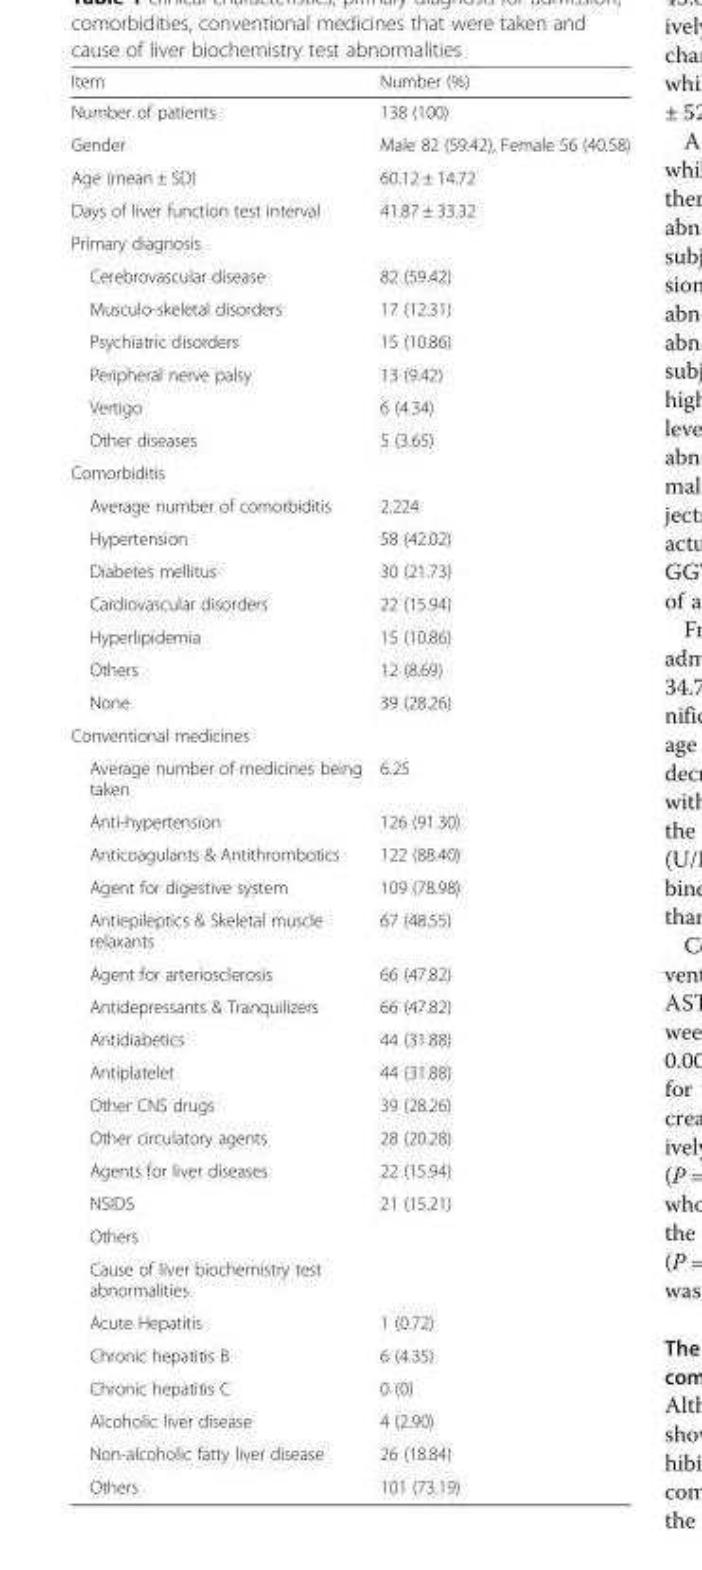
<table><thead><tr><td>Item</td><td>Number (%)</td></tr></thead><tbody><tr><td>Number of patients</td><td>138 (100)</td></tr><tr><td>Gender</td><td>Male 82 (59.42), Female 56 (40.58)</td></tr><tr><td>Age (mean ± SD)</td><td>60.12 ± 14.72</td></tr><tr><td>Days of liver function test interval</td><td>41.87 ± 33.32</td></tr><tr><td colspan="2">Primary diagnosis</td></tr><tr><td>Cerebrovascular disease</td><td>82 (59.42)</td></tr><tr><td>Musculo-skeletal disorders</td><td>17 (12.31)</td></tr><tr><td>Psychiatric disorders</td><td>15 (10.86)</td></tr><tr><td>Peripheral nerve palsy</td><td>13 (9.42)</td></tr><tr><td>Vertigo</td><td>6 (4.34)</td></tr><tr><td>Other diseases</td><td>5 (3.65)</td></tr><tr><td colspan="2">Comorbiditis</td></tr><tr><td>Average number of comorbiditis</td><td>2.224</td></tr><tr><td>Hypertension</td><td>58 (42.02)</td></tr><tr><td>Diabetes mellitus</td><td>30 (21.73)</td></tr><tr><td>Cardiovascular disorders</td><td>22 (15.94)</td></tr><tr><td>Hyperlipidemia</td><td>15 (10.86)</td></tr><tr><td>Others</td><td>12 (8.69)</td></tr><tr><td>None</td><td>39 (28.26)</td></tr><tr><td colspan="2">Conventional medicines</td></tr><tr><td>Average number of medicines being taken</td><td>6.25</td></tr><tr><td>Anti-hypertension</td><td>126 (91.30)</td></tr><tr><td>Anticoagulants &amp; Antithrombotics</td><td>122 (88.40)</td></tr><tr><td>Agent for digestive system</td><td>109 (78.98)</td></tr><tr><td>Antiepileptics &amp; Skeletal muscle relaxants</td><td>67 (48.55)</td></tr><tr><td>Agent for arteriosclerosis</td><td>66 (47.82)</td></tr><tr><td>Antidepressants &amp; Tranquilizers</td><td>66 (47.82)</td></tr><tr><td>Antidiabetics</td><td>44 (31.88)</td></tr><tr><td>Antiplatelet</td><td>44 (31.88)</td></tr><tr><td>Other CNS drugs</td><td>39 (28.26)</td></tr><tr><td>Other circulatory agents</td><td>28 (20.28)</td></tr><tr><td>Agents for liver diseases</td><td>22 (15.94)</td></tr><tr><td>NSIDS</td><td>21 (15.21)</td></tr><tr><td colspan="2">Others</td></tr><tr><td colspan="2">Cause of liver biochemistry test abnormalities</td></tr><tr><td>Acute Hepatitis</td><td>1 (0.72)</td></tr><tr><td>Chronic hepatitis B</td><td>6 (4.35)</td></tr><tr><td>Chronic hepatitis C</td><td>0 (0)</td></tr><tr><td>Alcoholic liver disease</td><td>4 (2.90)</td></tr><tr><td>Non-alcoholic fatty liver disease</td><td>26 (18.84)</td></tr><tr><td>Others</td><td>101 (73.19)</td></tr></tbody></table>